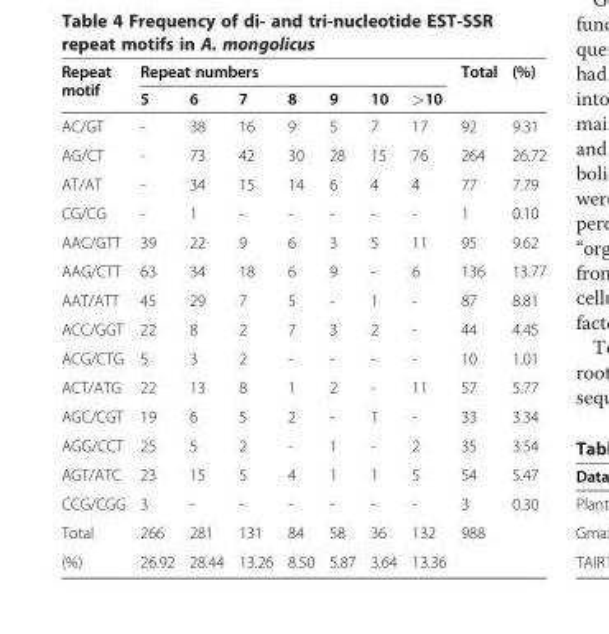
<table><thead><tr><td rowspan="2">Repeat motif</td><td colspan="7">Repeat numbers</td><td rowspan="2">Total</td><td rowspan="2">(%)</td></tr><tr><td>5</td><td>6</td><td>7</td><td>8</td><td>9</td><td>10</td><td>&gt;10</td></tr></thead><tbody><tr><td>AC/GT</td><td>-</td><td>38</td><td>16</td><td>9</td><td>5</td><td>7</td><td>17</td><td>92</td><td>9.31</td></tr><tr><td>AG/CT</td><td>-</td><td>73</td><td>42</td><td>30</td><td>28</td><td>15</td><td>76</td><td>264</td><td>26.72</td></tr><tr><td>AT/AT</td><td>-</td><td>34</td><td>15</td><td>14</td><td>6</td><td>4</td><td>4</td><td>77</td><td>7.79</td></tr><tr><td>CG/CG</td><td>-</td><td>1</td><td>-</td><td>-</td><td>-</td><td>-</td><td>-</td><td>1</td><td>0.10</td></tr><tr><td>AAC/GTT</td><td>39</td><td>22</td><td>9</td><td>6</td><td>3</td><td>5</td><td>11</td><td>95</td><td>9.62</td></tr><tr><td>AAG/CTT</td><td>63</td><td>34</td><td>18</td><td>6</td><td>9</td><td>-</td><td>6</td><td>136</td><td>13.77</td></tr><tr><td>AAT/ATT</td><td>45</td><td>29</td><td>7</td><td>5</td><td>-</td><td>1</td><td>-</td><td>87</td><td>8.81</td></tr><tr><td>ACC/GGT</td><td>22</td><td>8</td><td>2</td><td>7</td><td>3</td><td>2</td><td>-</td><td>44</td><td>4.45</td></tr><tr><td>ACG/CTG</td><td>5</td><td>3</td><td>2</td><td>-</td><td>-</td><td>-</td><td>-</td><td>10</td><td>1.01</td></tr><tr><td>ACT/ATG</td><td>22</td><td>13</td><td>8</td><td>1</td><td>2</td><td>-</td><td>11</td><td>57</td><td>5.77</td></tr><tr><td>AGC/CGT</td><td>19</td><td>6</td><td>5</td><td>2</td><td>-</td><td>1</td><td>-</td><td>33</td><td>3.34</td></tr><tr><td>AGG/CCT</td><td>25</td><td>5</td><td>2</td><td>-</td><td>1</td><td>-</td><td>2</td><td>35</td><td>3.54</td></tr><tr><td>AGT/ATC</td><td>23</td><td>15</td><td>5</td><td>4</td><td>1</td><td>1</td><td>5</td><td>54</td><td>5.47</td></tr><tr><td>CCG/CGG</td><td>3</td><td>-</td><td>-</td><td>-</td><td>-</td><td>-</td><td>-</td><td>3</td><td>0.30</td></tr><tr><td>Total</td><td>266</td><td>281</td><td>131</td><td>84</td><td>58</td><td>36</td><td>132</td><td>988</td><td></td></tr><tr><td>(%)</td><td>26.92</td><td>28.44</td><td>13.26</td><td>8.50</td><td>5.87</td><td>3.64</td><td>13.36</td><td></td><td></td></tr></tbody></table>